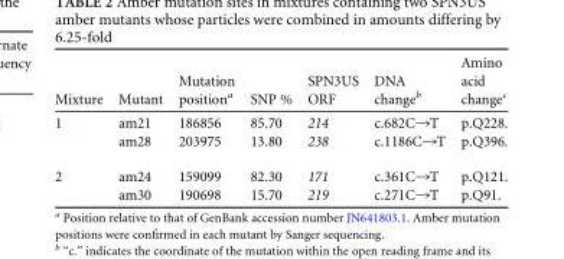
<table><thead><tr><td>Mixture</td><td>Mutant</td><td>Mutation position<sup>a</sup></td><td>SNP %</td><td>SPN3US ORF</td><td>DNA change<sup>b</sup></td><td>Amino acid change<sup>c</sup></td></tr></thead><tbody><tr><td rowspan="2">1</td><td>am21</td><td>186856</td><td>85.70</td><td>214</td><td>c.682C→T</td><td>p.Q228.</td></tr><tr><td>am28</td><td>203975</td><td>13.80</td><td>238</td><td>c.1186C→T</td><td>p.Q396.</td></tr><tr><td rowspan="2">2</td><td>am24</td><td>159099</td><td>82.30</td><td>171</td><td>c.361C→T</td><td>p.Q121.</td></tr><tr><td>am30</td><td>190698</td><td>15.70</td><td>219</td><td>c.271C→T</td><td>p.Q91.</td></tr></tbody></table>